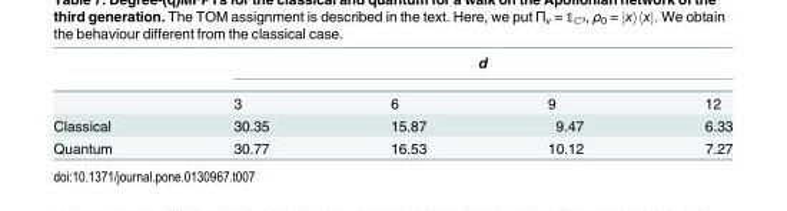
<table><thead><tr><td rowspan="2"></td><td colspan="4">d</td></tr><tr><td>3</td><td>6</td><td>9</td><td>12</td></tr></thead><tbody><tr><td>Classical</td><td>30.35</td><td>15.87</td><td>9.47</td><td>6.33</td></tr><tr><td>Quantum</td><td>30.77</td><td>16.53</td><td>10.12</td><td>7.27</td></tr></tbody></table>